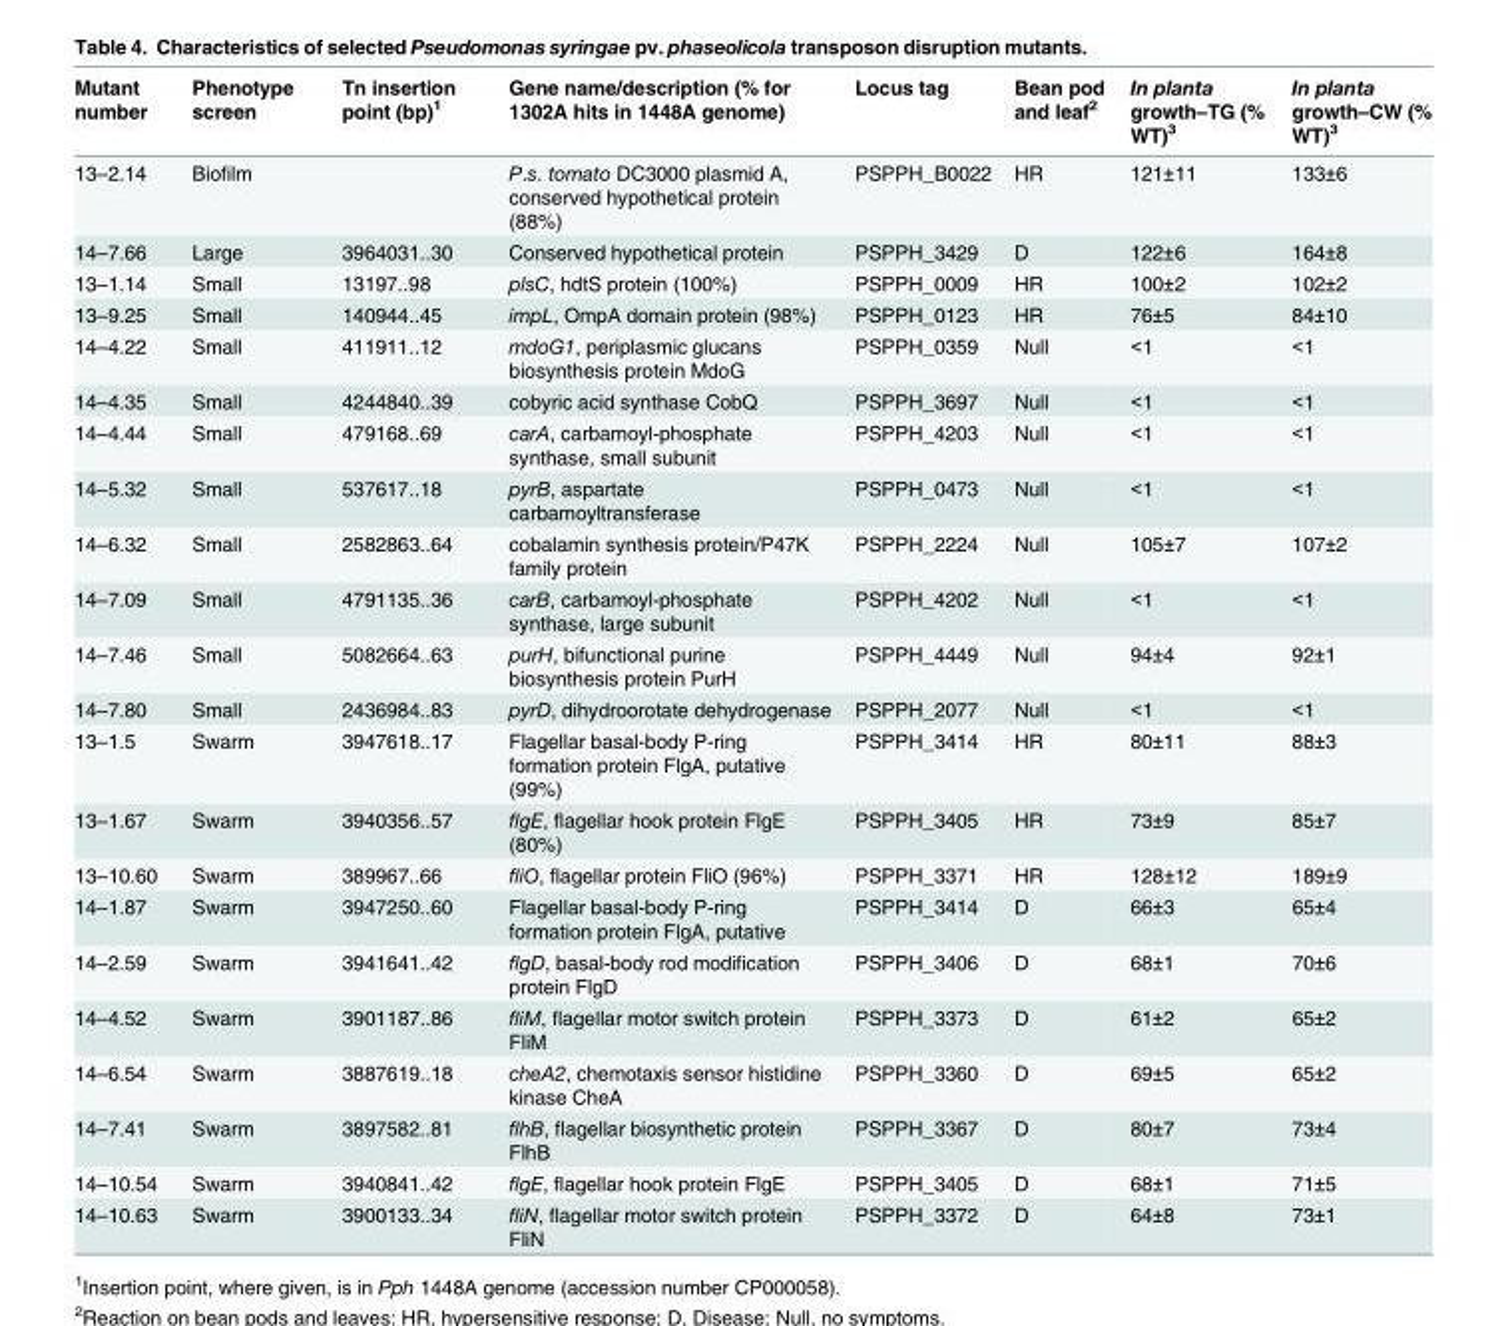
<table><thead><tr><td>Mutant number</td><td>Phenotype screen</td><td>Tn insertion point (bp)<sup>1</sup></td><td>Gene name/description (% for 1302A hits in 1448A genome)</td><td>Locus tag</td><td>Bean pod and leaf<sup>2</sup></td><td>In planta growth–TG (% WT)<sup>3</sup></td><td>In planta growth–CW (% WT)<sup>3</sup></td></tr></thead><tbody><tr><td>13–2.14</td><td>Biofilm</td><td></td><td>P.s. tomato DC3000 plasmid A, conserved hypothetical protein (88%)</td><td>PSPPH_B0022</td><td>HR</td><td>121±11</td><td>133±6</td></tr><tr><td>14–7.66</td><td>Large</td><td>3964031..30</td><td>Conserved hypothetical protein</td><td>PSPPH_3429</td><td>D</td><td>122±6</td><td>164±8</td></tr><tr><td>13–1.14</td><td>Small</td><td>13197..98</td><td>plsC, hdtS protein (100%)</td><td>PSPPH_0009</td><td>HR</td><td>100±2</td><td>102±2</td></tr><tr><td>13–9.25</td><td>Small</td><td>140944..45</td><td>impL, OmpA domain protein (98%)</td><td>PSPPH_0123</td><td>HR</td><td>76±5</td><td>84±10</td></tr><tr><td>14–4.22</td><td>Small</td><td>411911..12</td><td>mdoG1, periplasmic glucans biosynthesis protein MdoG</td><td>PSPPH_0359</td><td>Null</td><td>&lt;1</td><td>&lt;1</td></tr><tr><td>14–4.35</td><td>Small</td><td>4244840..39</td><td>cobyric acid synthase CobQ</td><td>PSPPH_3697</td><td>Null</td><td>&lt;1</td><td>&lt;1</td></tr><tr><td>14–4.44</td><td>Small</td><td>479168..69</td><td>carA, carbamoyl-phosphate synthase, small subunit</td><td>PSPPH_4203</td><td>Null</td><td>&lt;1</td><td>&lt;1</td></tr><tr><td>14–5.32</td><td>Small</td><td>537617..18</td><td>pyrB, aspartate carbamoyltransferase</td><td>PSPPH_0473</td><td>Null</td><td>&lt;1</td><td>&lt;1</td></tr><tr><td>14–6.32</td><td>Small</td><td>2582863..64</td><td>cobalamin synthesis protein/P47K family protein</td><td>PSPPH_2224</td><td>Null</td><td>105±7</td><td>107±2</td></tr><tr><td>14–7.09</td><td>Small</td><td>4791135..36</td><td>carB, carbamoyl-phosphate synthase, large subunit</td><td>PSPPH_4202</td><td>Null</td><td>&lt;1</td><td>&lt;1</td></tr><tr><td>14–7.46</td><td>Small</td><td>5082664..63</td><td>purH, bifunctional purine biosynthesis protein PurH</td><td>PSPPH_4449</td><td>Null</td><td>94±4</td><td>92±1</td></tr><tr><td>14–7.80</td><td>Small</td><td>2436984..83</td><td>pyrD, dihydroorotate dehydrogenase</td><td>PSPPH_2077</td><td>Null</td><td>&lt;1</td><td>&lt;1</td></tr><tr><td>13–1.5</td><td>Swarm</td><td>3947618..17</td><td>Flagellar basal-body P-ring formation protein FlgA, putative (99%)</td><td>PSPPH_3414</td><td>HR</td><td>80±11</td><td>88±3</td></tr><tr><td>13–1.67</td><td>Swarm</td><td>3940356..57</td><td>flgE, flagellar hook protein FlgE (80%)</td><td>PSPPH_3405</td><td>HR</td><td>73±9</td><td>85±7</td></tr><tr><td>13–10.60</td><td>Swarm</td><td>389967..66</td><td>fliO, flagellar protein FliO (96%)</td><td>PSPPH_3371</td><td>HR</td><td>128±12</td><td>189±9</td></tr><tr><td>14–1.87</td><td>Swarm</td><td>3947250..60</td><td>Flagellar basal-body P-ring formation protein FlgA, putative</td><td>PSPPH_3414</td><td>D</td><td>66±3</td><td>65±4</td></tr><tr><td>14–2.59</td><td>Swarm</td><td>3941641..42</td><td>flgD, basal-body rod modification protein FlgD</td><td>PSPPH_3406</td><td>D</td><td>68±1</td><td>70±6</td></tr><tr><td>14–4.52</td><td>Swarm</td><td>3901187..86</td><td>fliM, flagellar motor switch protein FliM</td><td>PSPPH_3373</td><td>D</td><td>61±2</td><td>65±2</td></tr><tr><td>14–6.54</td><td>Swarm</td><td>3887619..18</td><td>cheA2, chemotaxis sensor histidine kinase CheA</td><td>PSPPH_3360</td><td>D</td><td>69±5</td><td>65±2</td></tr><tr><td>14–7.41</td><td>Swarm</td><td>3897582..81</td><td>flhB, flagellar biosynthetic protein FlhB</td><td>PSPPH_3367</td><td>D</td><td>80±7</td><td>73±4</td></tr><tr><td>14–10.54</td><td>Swarm</td><td>3940841..42</td><td>flgE, flagellar hook protein FlgE</td><td>PSPPH_3405</td><td>D</td><td>68±1</td><td>71±5</td></tr><tr><td>14–10.63</td><td>Swarm</td><td>3900133..34</td><td>fliN, flagellar motor switch protein FliN</td><td>PSPPH_3372</td><td>D</td><td>64±8</td><td>73±1</td></tr></tbody></table>